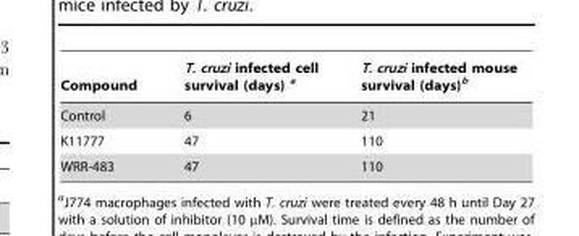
<table><thead><tr><td>Compound</td><td>T. cruzi infected cell survival (days) a</td><td>T. cruzi infected mouse survival (days)<sup>b</sup></td></tr></thead><tbody><tr><td>Control</td><td>6</td><td>21</td></tr><tr><td>K11777</td><td>47</td><td>110</td></tr><tr><td>WRR-483</td><td>47</td><td>110</td></tr></tbody></table>